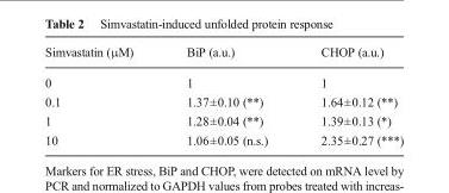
<table><thead><tr><td>Simvastatin (μM)</td><td>BiP (a.u.)</td><td>CHOP (a.u.)</td></tr></thead><tbody><tr><td>0</td><td>1</td><td>1</td></tr><tr><td>0.1</td><td>1.37±0.10 (**)</td><td>1.64±0.12 (**)</td></tr><tr><td>1</td><td>1.28±0.04 (**)</td><td>1.39±0.13 (*)</td></tr><tr><td>10</td><td>1.06±0.05 (n.s.)</td><td>2.35±0.27 (***)</td></tr></tbody></table>